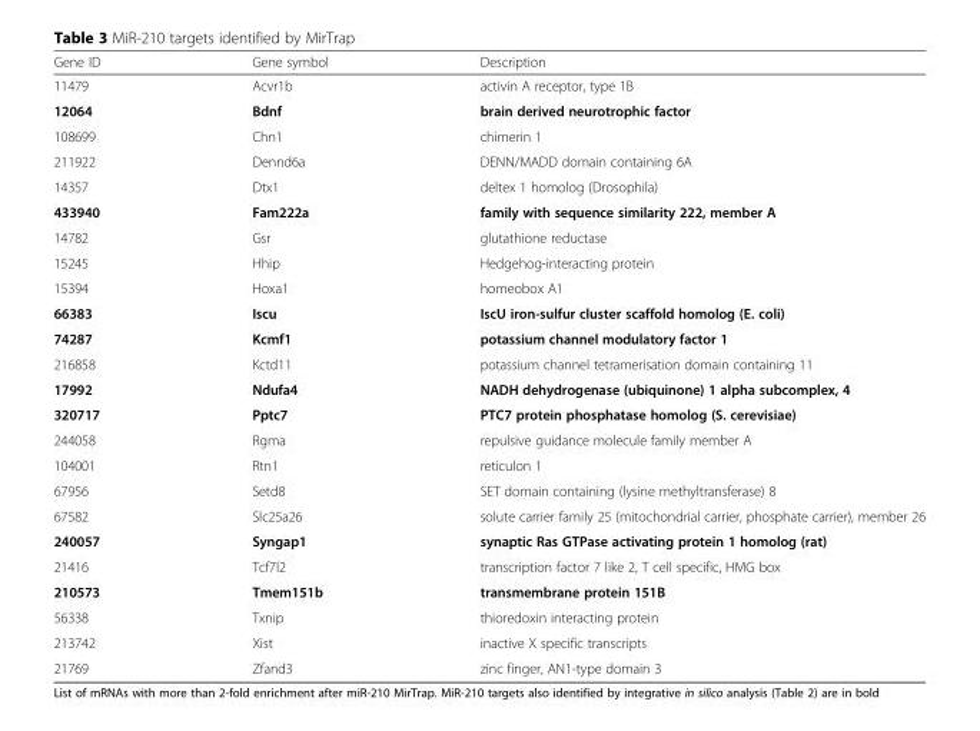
<table><thead><tr><td>Gene ID</td><td>Gene symbol</td><td>Description</td></tr></thead><tbody><tr><td>11479</td><td>Acvr1b</td><td>activin A receptor, type 1B</td></tr><tr><td>12064</td><td>Bdnf</td><td>brain derived neurotrophic factor</td></tr><tr><td>108699</td><td>Chn1</td><td>chimerin 1</td></tr><tr><td>211922</td><td>Dennd6a</td><td>DENN/MADD domain containing 6A</td></tr><tr><td>14357</td><td>Dtx1</td><td>deltex 1 homolog (Drosophila)</td></tr><tr><td>433940</td><td>Fam222a</td><td>family with sequence similarity 222, member A</td></tr><tr><td>14782</td><td>Gsr</td><td>glutathione reductase</td></tr><tr><td>15245</td><td>Hhip</td><td>Hedgehog-interacting protein</td></tr><tr><td>15394</td><td>Hoxa1</td><td>homeobox A1</td></tr><tr><td>66383</td><td>Iscu</td><td>IscU iron-sulfur cluster scaffold homolog (E. coli)</td></tr><tr><td>74287</td><td>Kcmf1</td><td>potassium channel modulatory factor 1</td></tr><tr><td>216858</td><td>Kctd11</td><td>potassium channel tetramerisation domain containing 11</td></tr><tr><td>17992</td><td>Ndufa4</td><td>NADH dehydrogenase (ubiquinone) 1 alpha subcomplex, 4</td></tr><tr><td>320717</td><td>Pptc7</td><td>PTC7 protein phosphatase homolog (S. cerevisiae)</td></tr><tr><td>244058</td><td>Rgma</td><td>repulsive guidance molecule family member A</td></tr><tr><td>104001</td><td>Rtn1</td><td>reticulon 1</td></tr><tr><td>67956</td><td>Setd8</td><td>SET domain containing (lysine methyltransferase) 8</td></tr><tr><td>67582</td><td>Slc25a26</td><td>solute carrier family 25 (mitochondrial carrier, phosphate carrier), member 26</td></tr><tr><td>240057</td><td>Syngap1</td><td>synaptic Ras GTPase activating protein 1 homolog (rat)</td></tr><tr><td>21416</td><td>Tcf7l2</td><td>transcription factor 7 like 2, T cell specific, HMG box</td></tr><tr><td>210573</td><td>Tmem151b</td><td>transmembrane protein 151B</td></tr><tr><td>56338</td><td>Txnip</td><td>thioredoxin interacting protein</td></tr><tr><td>213742</td><td>Xist</td><td>inactive X specific transcripts</td></tr><tr><td>21769</td><td>Zfand3</td><td>zinc finger, AN1-type domain 3</td></tr></tbody></table>